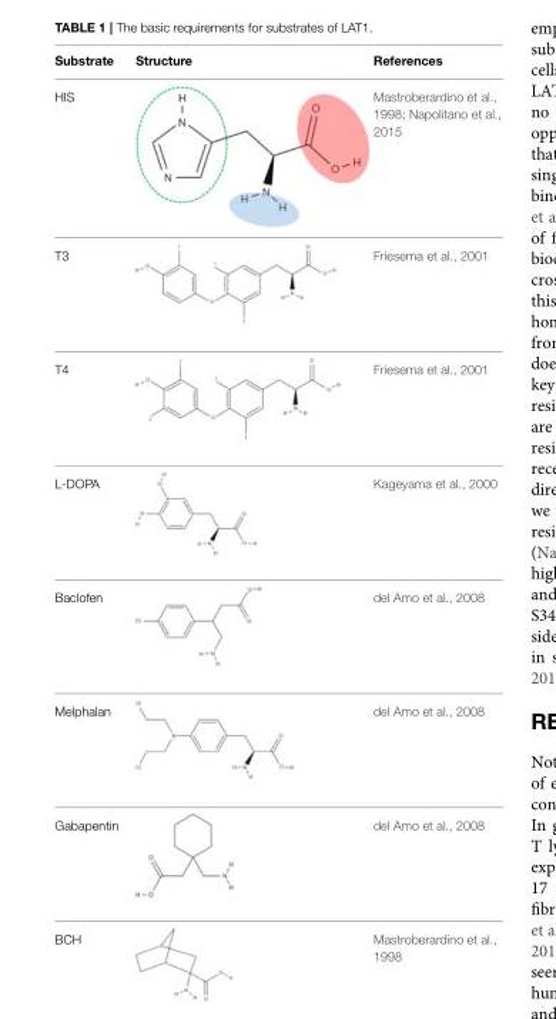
<table><thead><tr><td>Substrate</td><td>Structure</td><td>References</td></tr></thead><tbody><tr><td>HIS</td><td></td><td>Mastroberardino et al., 1998; Napolitano et al., 2015</td></tr><tr><td>T3</td><td></td><td>Friesema et al., 2001</td></tr><tr><td>T4</td><td></td><td>Friesema et al., 2001</td></tr><tr><td>L-DOPA</td><td></td><td>Kageyama et al., 2000</td></tr><tr><td>Baclofen</td><td></td><td>del Amo et al., 2008</td></tr><tr><td>Melphalan</td><td></td><td>del Amo et al., 2008</td></tr><tr><td>Gabapentin</td><td></td><td>del Amo et al., 2008</td></tr><tr><td>BCH</td><td></td><td>Mastroberardino et al., 1998</td></tr></tbody></table>